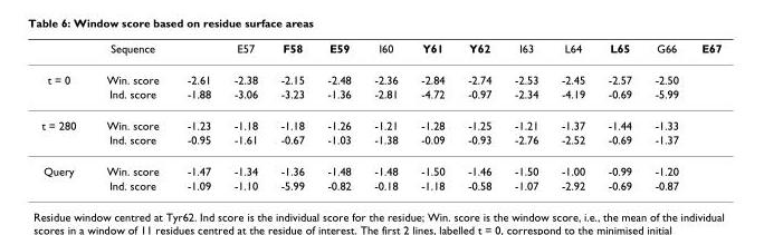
<table><thead><tr><td></td><td>Sequence</td><td></td><td>E57</td><td>F58</td><td>E59</td><td>I60</td><td>Y61</td><td>Y62</td><td>I63</td><td>L64</td><td>L65</td><td>G66</td><td>E67</td></tr></thead><tbody><tr><td rowspan="2">t = 0</td><td>Win. score</td><td>-2.61</td><td>-2.38</td><td>-2.15</td><td>-2.48</td><td>-2.36</td><td>-2.84</td><td>-2.74</td><td>-2.53</td><td>-2.45</td><td>-2.57</td><td>-2.50</td><td></td></tr><tr><td>Ind. score</td><td>-1.88</td><td>-3.06</td><td>-3.23</td><td>-1.36</td><td>-2.81</td><td>-4.72</td><td>-0.97</td><td>-2.34</td><td>-4.19</td><td>-0.69</td><td>-5.99</td><td></td></tr><tr><td rowspan="2">t = 280</td><td>Win. score</td><td>-1.23</td><td>-1.18</td><td>-1.18</td><td>-1.26</td><td>-1.21</td><td>-1.28</td><td>-1.25</td><td>-1.21</td><td>-1.37</td><td>-1.44</td><td>-1.33</td><td></td></tr><tr><td>Ind. score</td><td>-0.95</td><td>-1.61</td><td>-0.67</td><td>-1.03</td><td>-1.38</td><td>-0.09</td><td>-0.93</td><td>-2.76</td><td>-2.52</td><td>-0.69</td><td>-1.37</td><td></td></tr><tr><td rowspan="2">Query</td><td>Win. score</td><td>-1.47</td><td>-1.34</td><td>-1.36</td><td>-1.48</td><td>-1.48</td><td>-1.50</td><td>-1.46</td><td>-1.50</td><td>-1.00</td><td>-0.99</td><td>-1.20</td><td></td></tr><tr><td>Ind. score</td><td>-1.09</td><td>-1.10</td><td>-5.99</td><td>-0.82</td><td>-0.18</td><td>-1.18</td><td>-0.58</td><td>-1.07</td><td>-2.92</td><td>-0.69</td><td>-0.87</td><td></td></tr></tbody></table>